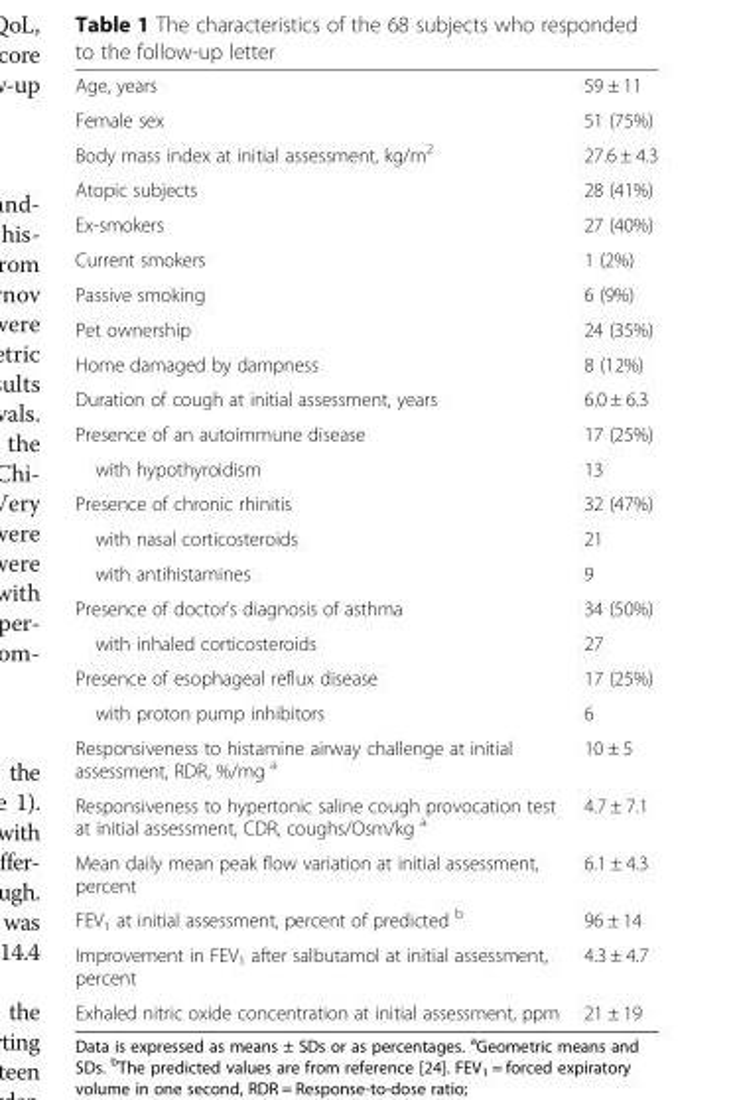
<table><tbody><tr><td>Age, years</td><td>59 ± 11</td></tr><tr><td>Female sex</td><td>51 (75%)</td></tr><tr><td>Body mass index at initial assessment, kg/m<sup>2</sup></td><td>27.6 ± 4.3</td></tr><tr><td>Atopic subjects</td><td>28 (41%)</td></tr><tr><td>Ex-smokers</td><td>27 (40%)</td></tr><tr><td>Current smokers</td><td>1 (2%)</td></tr><tr><td>Passive smoking</td><td>6 (9%)</td></tr><tr><td>Pet ownership</td><td>24 (35%)</td></tr><tr><td>Home damaged by dampness</td><td>8 (12%)</td></tr><tr><td>Duration of cough at initial assessment, years</td><td>6.0 ± 6.3</td></tr><tr><td>Presence of an autoimmune disease</td><td>17 (25%)</td></tr><tr><td>with hypothyroidism</td><td>13</td></tr><tr><td>Presence of chronic rhinitis</td><td>32 (47%)</td></tr><tr><td>with nasal corticosteroids</td><td>21</td></tr><tr><td>with antihistamines</td><td>9</td></tr><tr><td>Presence of doctor’s diagnosis of asthma</td><td>34 (50%)</td></tr><tr><td>with inhaled corticosteroids</td><td>27</td></tr><tr><td>Presence of esophageal reflux disease</td><td>17 (25%)</td></tr><tr><td>with proton pump inhibitors</td><td>6</td></tr><tr><td>Responsiveness to histamine airway challenge at initial assessment, RDR, %/mg <sup>a</sup></td><td>10 ± 5</td></tr><tr><td>Responsiveness to hypertonic saline cough provocation test at initial assessment, CDR, coughs/Osm/kg <sup>a</sup></td><td>4.7 ± 7.1</td></tr><tr><td>Mean daily mean peak flow variation at initial assessment, percent</td><td>6.1 ± 4.3</td></tr><tr><td>FEV<sub>1</sub> at initial assessment, percent of predicted <sup>b</sup></td><td>96 ± 14</td></tr><tr><td>Improvement in FEV<sub>1</sub> after salbutamol at initial assessment, percent</td><td>4.3 ± 4.7</td></tr><tr><td>Exhaled nitric oxide concentration at initial assessment, ppm</td><td>21 ± 19</td></tr></tbody></table>